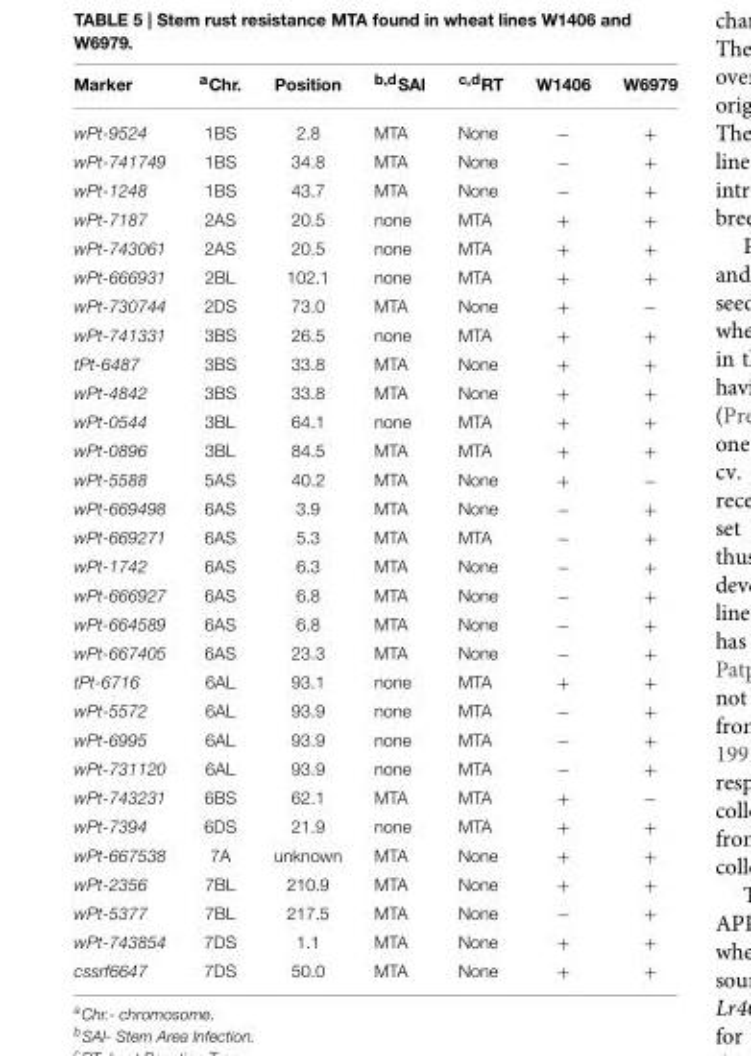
<table><thead><tr><td>Marker</td><td><sup>a</sup>Chr.</td><td>Position</td><td><sup>b,d</sup>SAI</td><td><sup>c,d</sup>RT</td><td>W1406</td><td>W6979</td></tr></thead><tbody><tr><td>wPt-9524</td><td>1BS</td><td>2.8</td><td>MTA</td><td>None</td><td>−</td><td>+</td></tr><tr><td>wPt-741749</td><td>1BS</td><td>34.8</td><td>MTA</td><td>None</td><td>−</td><td>+</td></tr><tr><td>wPt-1248</td><td>1BS</td><td>43.7</td><td>MTA</td><td>None</td><td>−</td><td>+</td></tr><tr><td>wPt-7187</td><td>2AS</td><td>20.5</td><td>none</td><td>MTA</td><td>+</td><td>+</td></tr><tr><td>wPt-743061</td><td>2AS</td><td>20.5</td><td>none</td><td>MTA</td><td>+</td><td>+</td></tr><tr><td>wPt-666931</td><td>2BL</td><td>102.1</td><td>none</td><td>MTA</td><td>+</td><td>+</td></tr><tr><td>wPt-730744</td><td>2DS</td><td>73.0</td><td>MTA</td><td>None</td><td>+</td><td>−</td></tr><tr><td>wPt-741331</td><td>3BS</td><td>26.5</td><td>none</td><td>MTA</td><td>+</td><td>+</td></tr><tr><td>tPt-6487</td><td>3BS</td><td>33.8</td><td>MTA</td><td>None</td><td>+</td><td>+</td></tr><tr><td>wPt-4842</td><td>3BS</td><td>33.8</td><td>MTA</td><td>None</td><td>+</td><td>+</td></tr><tr><td>wPt-0544</td><td>3BL</td><td>64.1</td><td>none</td><td>MTA</td><td>+</td><td>+</td></tr><tr><td>wPt-0896</td><td>3BL</td><td>84.5</td><td>MTA</td><td>MTA</td><td>+</td><td>+</td></tr><tr><td>wPt-5588</td><td>5AS</td><td>40.2</td><td>MTA</td><td>None</td><td>+</td><td>−</td></tr><tr><td>wPt-669498</td><td>6AS</td><td>3.9</td><td>MTA</td><td>None</td><td>−</td><td>+</td></tr><tr><td>wPt-669271</td><td>6AS</td><td>5.3</td><td>MTA</td><td>MTA</td><td>−</td><td>+</td></tr><tr><td>wPt-1742</td><td>6AS</td><td>6.3</td><td>MTA</td><td>None</td><td>−</td><td>+</td></tr><tr><td>wPt-666927</td><td>6AS</td><td>6.8</td><td>MTA</td><td>None</td><td>−</td><td>+</td></tr><tr><td>wPt-664589</td><td>6AS</td><td>6.8</td><td>MTA</td><td>None</td><td>−</td><td>+</td></tr><tr><td>wPt-667405</td><td>6AS</td><td>23.3</td><td>MTA</td><td>None</td><td>−</td><td>+</td></tr><tr><td>tPt-6716</td><td>6AL</td><td>93.1</td><td>none</td><td>MTA</td><td>+</td><td>+</td></tr><tr><td>wPt-5572</td><td>6AL</td><td>93.9</td><td>none</td><td>MTA</td><td>−</td><td>+</td></tr><tr><td>wPt-6995</td><td>6AL</td><td>93.9</td><td>none</td><td>MTA</td><td>−</td><td>+</td></tr><tr><td>wPt-731120</td><td>6AL</td><td>93.9</td><td>none</td><td>MTA</td><td>−</td><td>+</td></tr><tr><td>wPt-743231</td><td>6BS</td><td>62.1</td><td>MTA</td><td>MTA</td><td>+</td><td>−</td></tr><tr><td>wPt-7394</td><td>6DS</td><td>21.9</td><td>none</td><td>MTA</td><td>+</td><td>+</td></tr><tr><td>wPt-667538</td><td>7A</td><td>unknown</td><td>MTA</td><td>None</td><td>+</td><td>+</td></tr><tr><td>wPt-2356</td><td>7BL</td><td>210.9</td><td>MTA</td><td>None</td><td>+</td><td>+</td></tr><tr><td>wPt-5377</td><td>7BL</td><td>217.5</td><td>MTA</td><td>None</td><td>−</td><td>+</td></tr><tr><td>wPt-743854</td><td>7DS</td><td>1.1</td><td>MTA</td><td>None</td><td>+</td><td>+</td></tr><tr><td>cssrf6647</td><td>7DS</td><td>50.0</td><td>MTA</td><td>None</td><td>+</td><td>+</td></tr></tbody></table>